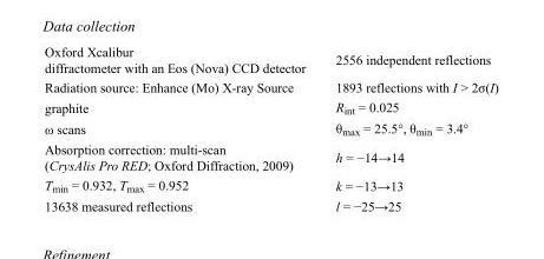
<table><tbody><tr><td>Oxford Xcalibur diffractometer with an Eos (Nova) CCD detector</td><td>2556 independent reflections</td></tr><tr><td>Radiation source: Enhance (Mo) X-ray Source</td><td>1893 reflections with I &gt; 2σ(I)</td></tr><tr><td>graphite</td><td>R<sub>int</sub> = 0.025</td></tr><tr><td>ω scans</td><td>θ<sub>max</sub> = 25.5°, θ<sub>min</sub> = 3.4°</td></tr><tr><td>Absorption correction: multi-scan (CrysAlis Pro RED; Oxford Diffraction, 2009)</td><td>h = −14→14</td></tr><tr><td>T<sub>min</sub> = 0.932, T<sub>max</sub> = 0.952</td><td>k = −13→13</td></tr><tr><td>13638 measured reflections</td><td>l = −25→25</td></tr></tbody></table>